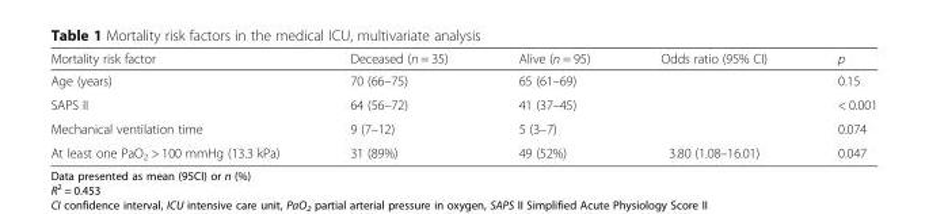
<table><thead><tr><td>Mortality risk factor</td><td>Deceased (n = 35)</td><td>Alive (n = 95)</td><td>Odds ratio (95% CI)</td><td>p</td></tr></thead><tbody><tr><td>Age (years)</td><td>70 (66–75)</td><td>65 (61–69)</td><td></td><td>0.15</td></tr><tr><td>SAPS II</td><td>64 (56–72)</td><td>41 (37–45)</td><td></td><td>&lt; 0.001</td></tr><tr><td>Mechanical ventilation time</td><td>9 (7–12)</td><td>5 (3–7)</td><td></td><td>0.074</td></tr><tr><td>At least one PaO<sub>2</sub> &gt; 100 mmHg (13.3 kPa)</td><td>31 (89%)</td><td>49 (52%)</td><td>3.80 (1.08–16.01)</td><td>0.047</td></tr></tbody></table>